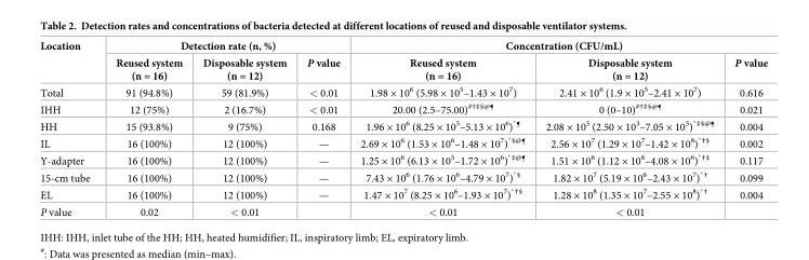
<table><thead><tr><td rowspan="2">Location</td><td colspan="3">Detection rate (n, %)</td><td colspan="3">Concentration (CFU/mL)</td></tr><tr><td>Reused system (n = 16)</td><td>Disposable system (n = 12)</td><td>P value</td><td>Reused system (n = 16)</td><td>Disposable system (n = 12)</td><td>P value</td></tr></thead><tbody><tr><td>Total</td><td>91 (94.8%)</td><td>59 (81.9%)</td><td>&lt; 0.01</td><td>1.98 × 10<sup>6</sup> (5.98 × 10<sup>5</sup>–1.43 × 10<sup>7</sup>)</td><td>2.41 × 10<sup>6</sup> (1.9 × 10<sup>5</sup>–2.41 × 10<sup>7</sup>)</td><td>0.616</td></tr><tr><td>IHH</td><td>12 (75%)</td><td>2 (16.7%)</td><td>&lt; 0.01</td><td>20.00 (2.5–75.00)<sup>#†‡§@¶</sup></td><td>0 (0–10)<sup>#†‡§@¶</sup></td><td>0.021</td></tr><tr><td>HH</td><td>15 (93.8%)</td><td>9 (75%)</td><td>0.168</td><td>1.96 × 10<sup>6</sup> (8.25 × 10<sup>5</sup>–5.13 × 10<sup>6</sup>) <sup>*¶</sup></td><td>2.08 × 10<sup>5</sup> (2.50 × 10<sup>3</sup>–7.05 × 10<sup>5</sup>) <sup>*‡§@¶</sup></td><td>0.004</td></tr><tr><td>IL</td><td>16 (100%)</td><td>12 (100%)</td><td>—</td><td>2.69 × 10<sup>6</sup> (1.53 × 10<sup>6</sup>–1.48 × 10<sup>7</sup>) <sup>*§@¶</sup></td><td>2.56 × 10<sup>7</sup> (1.29 × 10<sup>7</sup>–1.42 × 10<sup>8</sup>) <sup>*†§</sup></td><td>0.002</td></tr><tr><td>Y-adapter</td><td>16 (100%)</td><td>12 (100%)</td><td>—</td><td>1.25 × 10<sup>6</sup> (6.13 × 10<sup>5</sup>–1.72 × 10<sup>6</sup>) <sup>*‡@¶</sup></td><td>1.51 × 10<sup>6</sup> (1.12 × 10<sup>6</sup>–4.08 × 10<sup>6</sup>) <sup>*†‡</sup></td><td>0.117</td></tr><tr><td>15-cm tube</td><td>16 (100%)</td><td>12 (100%)</td><td>—</td><td>7.43 × 10<sup>6</sup> (1.76 × 10<sup>6</sup>–4.79 × 10<sup>7</sup>) <sup>*§</sup></td><td>1.82 × 10<sup>7</sup> (5.19 × 10<sup>6</sup>–2.43 × 10<sup>7</sup>) <sup>*†</sup></td><td>0.099</td></tr><tr><td>EL</td><td>16 (100%)</td><td>12 (100%)</td><td>—</td><td>1.47 × 10<sup>7</sup> (8.25 × 10<sup>6</sup>–1.93 × 10<sup>7</sup>) <sup>*†§</sup></td><td>1.28 × 10<sup>8</sup> (1.35 × 10<sup>7</sup>–2.55 × 10<sup>8</sup>) <sup>*†</sup></td><td>0.004</td></tr><tr><td>P value</td><td>0.02</td><td>&lt; 0.01</td><td></td><td>&lt; 0.01</td><td>&lt; 0.01</td><td></td></tr></tbody></table>